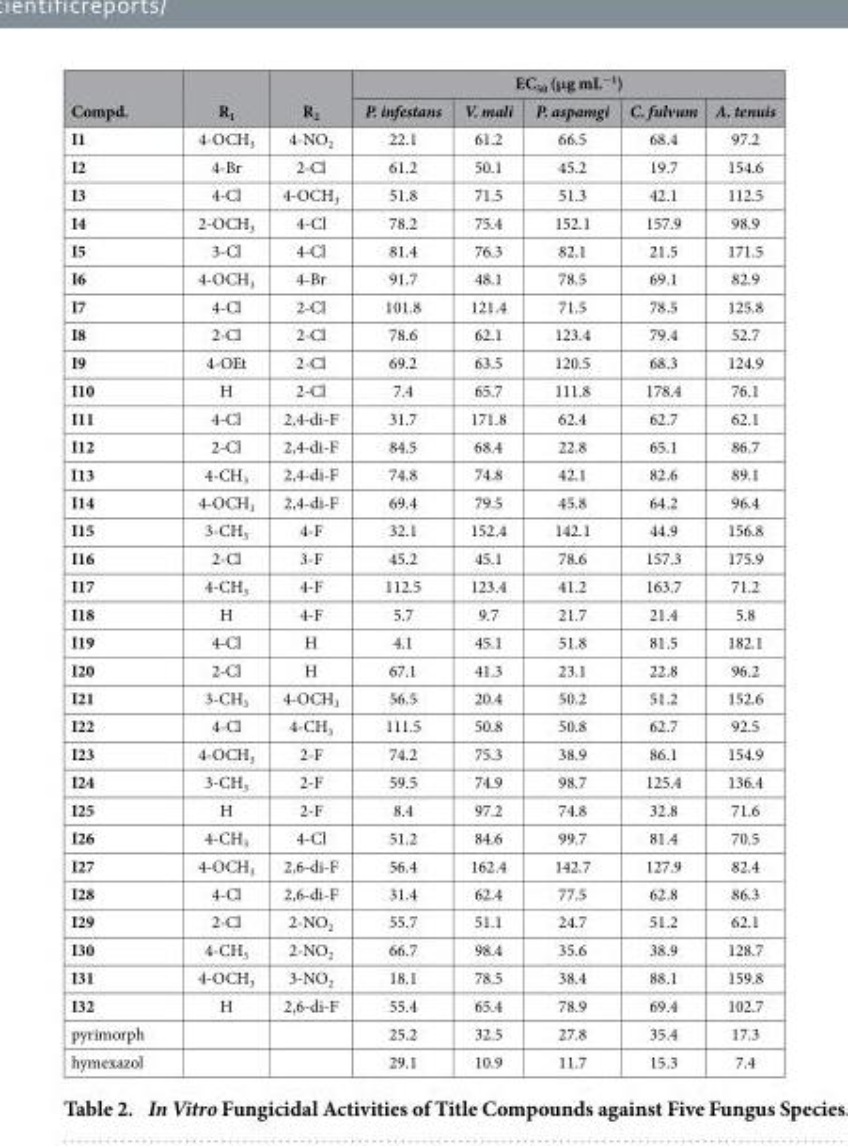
<table><thead><tr><td rowspan="2">Compd.</td><td rowspan="2">R<sub>1</sub></td><td rowspan="2">R<sub>2</sub></td><td colspan="5">EC<sub>50</sub> (μg mL<sup>−1</sup>)</td></tr><tr><td>P. infestans</td><td>V. mali</td><td>P. aspamgi</td><td>C. fulvum</td><td>A. tenuis</td></tr></thead><tbody><tr><td>I1</td><td>4-OCH<sub>3</sub></td><td>4-NO<sub>2</sub></td><td>22.1</td><td>61.2</td><td>66.5</td><td>68.4</td><td>97.2</td></tr><tr><td>I2</td><td>4-Br</td><td>2-Cl</td><td>61.2</td><td>50.1</td><td>45.2</td><td>19.7</td><td>154.6</td></tr><tr><td>I3</td><td>4-Cl</td><td>4-OCH<sub>3</sub></td><td>51.8</td><td>71.5</td><td>51.3</td><td>42.1</td><td>112.5</td></tr><tr><td>I4</td><td>2-OCH<sub>3</sub></td><td>4-Cl</td><td>78.2</td><td>75.4</td><td>152.1</td><td>157.9</td><td>98.9</td></tr><tr><td>I5</td><td>3-Cl</td><td>4-Cl</td><td>81.4</td><td>76.3</td><td>82.1</td><td>21.5</td><td>171.5</td></tr><tr><td>I6</td><td>4-OCH<sub>3</sub></td><td>4-Br</td><td>91.7</td><td>48.1</td><td>78.5</td><td>69.1</td><td>82.9</td></tr><tr><td>I7</td><td>4-Cl</td><td>2-Cl</td><td>101.8</td><td>121.4</td><td>71.5</td><td>78.5</td><td>125.8</td></tr><tr><td>I8</td><td>2-Cl</td><td>2-Cl</td><td>78.6</td><td>62.1</td><td>123.4</td><td>79.4</td><td>52.7</td></tr><tr><td>I9</td><td>4-OEt</td><td>2-Cl</td><td>69.2</td><td>63.5</td><td>120.5</td><td>68.3</td><td>124.9</td></tr><tr><td>I10</td><td>H</td><td>2-Cl</td><td>7.4</td><td>65.7</td><td>111.8</td><td>178.4</td><td>76.1</td></tr><tr><td>I11</td><td>4-Cl</td><td>2,4-di-F</td><td>31.7</td><td>171.8</td><td>62.4</td><td>62.7</td><td>62.1</td></tr><tr><td>I12</td><td>2-Cl</td><td>2,4-di-F</td><td>84.5</td><td>68.4</td><td>22.8</td><td>65.1</td><td>86.7</td></tr><tr><td>I13</td><td>4-CH<sub>3</sub></td><td>2,4-di-F</td><td>74.8</td><td>74.8</td><td>42.1</td><td>82.6</td><td>89.1</td></tr><tr><td>I14</td><td>4-OCH<sub>3</sub></td><td>2,4-di-F</td><td>69.4</td><td>79.5</td><td>45.8</td><td>64.2</td><td>96.4</td></tr><tr><td>I15</td><td>3-CH<sub>3</sub></td><td>4-F</td><td>32.1</td><td>152.4</td><td>142.1</td><td>44.9</td><td>156.8</td></tr><tr><td>I16</td><td>2-Cl</td><td>3-F</td><td>45.2</td><td>45.1</td><td>78.6</td><td>157.3</td><td>175.9</td></tr><tr><td>I17</td><td>4-CH<sub>3</sub></td><td>4-F</td><td>112.5</td><td>123.4</td><td>41.2</td><td>163.7</td><td>71.2</td></tr><tr><td>I18</td><td>H</td><td>4-F</td><td>5.7</td><td>9.7</td><td>21.7</td><td>21.4</td><td>5.8</td></tr><tr><td>I19</td><td>4-Cl</td><td>H</td><td>4.1</td><td>45.1</td><td>51.8</td><td>81.5</td><td>182.1</td></tr><tr><td>I20</td><td>2-Cl</td><td>H</td><td>67.1</td><td>41.3</td><td>23.1</td><td>22.8</td><td>96.2</td></tr><tr><td>I21</td><td>3-CH<sub>3</sub></td><td>4-OCH<sub>3</sub></td><td>56.5</td><td>20.4</td><td>50.2</td><td>51.2</td><td>152.6</td></tr><tr><td>I22</td><td>4-Cl</td><td>4-CH<sub>3</sub></td><td>111.5</td><td>50.8</td><td>50.8</td><td>62.7</td><td>92.5</td></tr><tr><td>I23</td><td>4-OCH<sub>3</sub></td><td>2-F</td><td>74.2</td><td>75.3</td><td>38.9</td><td>86.1</td><td>154.9</td></tr><tr><td>I24</td><td>3-CH<sub>3</sub></td><td>2-F</td><td>59.5</td><td>74.9</td><td>98.7</td><td>125.4</td><td>136.4</td></tr><tr><td>I25</td><td>H</td><td>2-F</td><td>8.4</td><td>97.2</td><td>74.8</td><td>32.8</td><td>71.6</td></tr><tr><td>I26</td><td>4-CH<sub>3</sub></td><td>4-Cl</td><td>51.2</td><td>84.6</td><td>99.7</td><td>81.4</td><td>70.5</td></tr><tr><td>I27</td><td>4-OCH<sub>3</sub></td><td>2,6-di-F</td><td>56.4</td><td>162.4</td><td>142.7</td><td>127.9</td><td>82.4</td></tr><tr><td>I28</td><td>4-Cl</td><td>2,6-di-F</td><td>31.4</td><td>62.4</td><td>77.5</td><td>62.8</td><td>86.3</td></tr><tr><td>I29</td><td>2-Cl</td><td>2-NO<sub>2</sub></td><td>55.7</td><td>51.1</td><td>24.7</td><td>51.2</td><td>62.1</td></tr><tr><td>I30</td><td>4-CH<sub>3</sub></td><td>2-NO<sub>2</sub></td><td>66.7</td><td>98.4</td><td>35.6</td><td>38.9</td><td>128.7</td></tr><tr><td>I31</td><td>4-OCH<sub>3</sub></td><td>3-NO<sub>2</sub></td><td>18.1</td><td>78.5</td><td>38.4</td><td>88.1</td><td>159.8</td></tr><tr><td>I32</td><td>H</td><td>2,6-di-F</td><td>55.4</td><td>65.4</td><td>78.9</td><td>69.4</td><td>102.7</td></tr><tr><td>pyrimorph</td><td></td><td></td><td>25.2</td><td>32.5</td><td>27.8</td><td>35.4</td><td>17.3</td></tr><tr><td>hymexazol</td><td></td><td></td><td>29.1</td><td>10.9</td><td>11.7</td><td>15.3</td><td>7.4</td></tr></tbody></table>